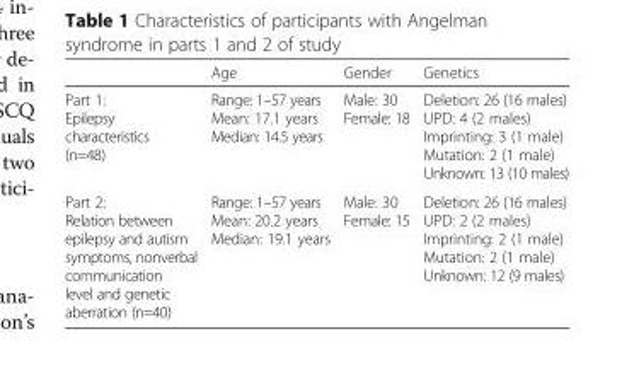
<table><thead><tr><td></td><td>Age</td><td>Gender</td><td>Genetics</td></tr></thead><tbody><tr><td>Part 1: Epilepsy characteristics (n=48)</td><td>Range: 1–57 years Mean: 17.1 years Median: 14.5 years</td><td>Male: 30 Female: 18</td><td>Deletion: 26 (16 males) UPD: 4 (2 males) Imprinting: 3 (1 male) Mutation: 2 (1 male) Unknown: 13 (10 males)</td></tr><tr><td>Part 2: Relation between epilepsy and autism symptoms, nonverbal communication level and genetic aberration (n=40)</td><td>Range: 1–57 years Mean: 20.2 years Median: 19.1 years</td><td>Male: 30 Female: 15</td><td>Deletion: 26 (16 males) UPD: 2 (2 males) Imprinting: 2 (1 male) Mutation: 2 (1 male) Unknown: 12 (9 males)</td></tr></tbody></table>